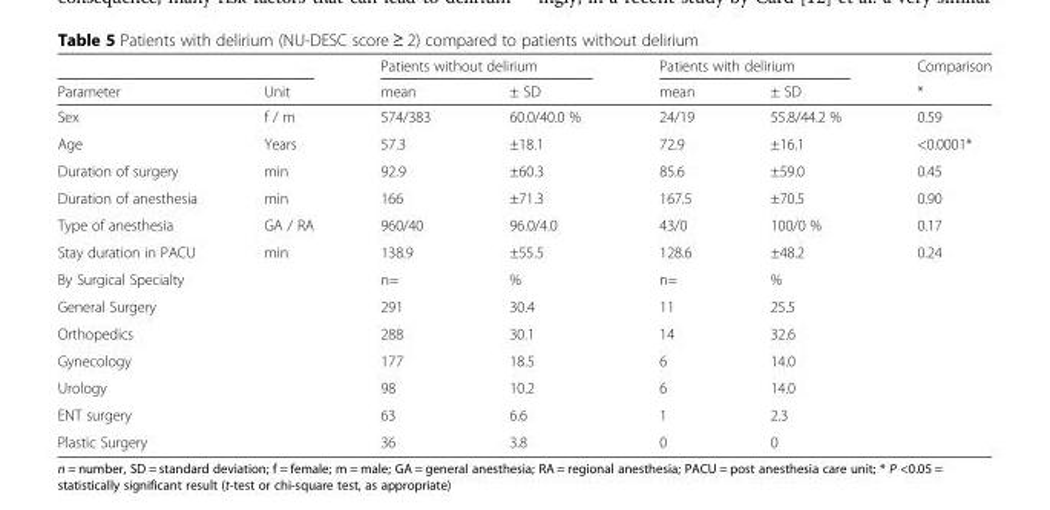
<table><thead><tr><td rowspan="2">Parameter</td><td rowspan="2">Unit</td><td colspan="2">Patients without delirium</td><td colspan="2">Patients with delirium</td><td rowspan="2">Comparison *</td></tr><tr><td>mean</td><td>± SD</td><td>mean</td><td>± SD</td></tr></thead><tbody><tr><td>Sex</td><td>f / m</td><td>574/383</td><td>60.0/40.0 %</td><td>24/19</td><td>55.8/44.2 %</td><td>0.59</td></tr><tr><td>Age</td><td>Years</td><td>57.3</td><td>±18.1</td><td>72.9</td><td>±16.1</td><td>&lt;0.0001*</td></tr><tr><td>Duration of surgery</td><td>min</td><td>92.9</td><td>±60.3</td><td>85.6</td><td>±59.0</td><td>0.45</td></tr><tr><td>Duration of anesthesia</td><td>min</td><td>166</td><td>±71.3</td><td>167.5</td><td>±70.5</td><td>0.90</td></tr><tr><td>Type of anesthesia</td><td>GA / RA</td><td>960/40</td><td>96.0/4.0</td><td>43/0</td><td>100/0 %</td><td>0.17</td></tr><tr><td>Stay duration in PACU</td><td>min</td><td>138.9</td><td>±55.5</td><td>128.6</td><td>±48.2</td><td>0.24</td></tr><tr><td>By Surgical Specialty</td><td></td><td>n=</td><td>%</td><td>n=</td><td>%</td><td></td></tr><tr><td>General Surgery</td><td></td><td>291</td><td>30.4</td><td>11</td><td>25.5</td><td></td></tr><tr><td>Orthopedics</td><td></td><td>288</td><td>30.1</td><td>14</td><td>32.6</td><td></td></tr><tr><td>Gynecology</td><td></td><td>177</td><td>18.5</td><td>6</td><td>14.0</td><td></td></tr><tr><td>Urology</td><td></td><td>98</td><td>10.2</td><td>6</td><td>14.0</td><td></td></tr><tr><td>ENT surgery</td><td></td><td>63</td><td>6.6</td><td>1</td><td>2.3</td><td></td></tr><tr><td>Plastic Surgery</td><td></td><td>36</td><td>3.8</td><td>0</td><td>0</td><td></td></tr></tbody></table>